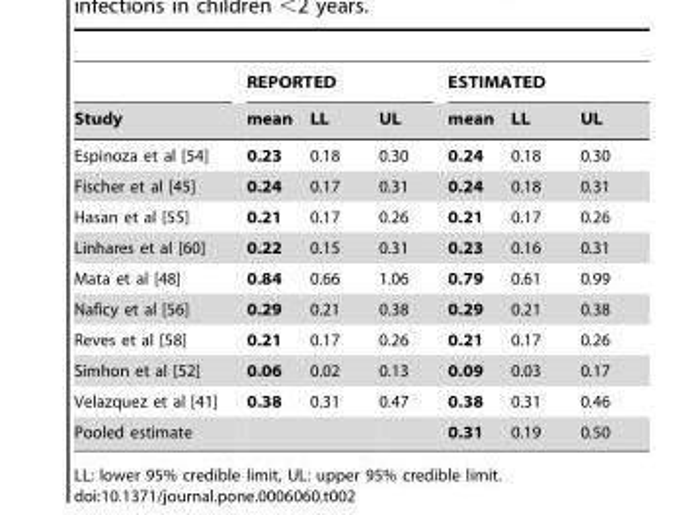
<table><thead><tr><td rowspan="2">Study</td><td colspan="3">REPORTED</td><td colspan="3">ESTIMATED</td></tr><tr><td>mean</td><td>LL</td><td>UL</td><td>mean</td><td>LL</td><td>UL</td></tr></thead><tbody><tr><td>Espinoza et al [54]</td><td>0.23</td><td>0.18</td><td>0.30</td><td>0.24</td><td>0.18</td><td>0.30</td></tr><tr><td>Fischer et al [45]</td><td>0.24</td><td>0.17</td><td>0.31</td><td>0.24</td><td>0.18</td><td>0.31</td></tr><tr><td>Hasan et al [55]</td><td>0.21</td><td>0.17</td><td>0.26</td><td>0.21</td><td>0.17</td><td>0.26</td></tr><tr><td>Linhares et al [60]</td><td>0.22</td><td>0.15</td><td>0.31</td><td>0.23</td><td>0.16</td><td>0.31</td></tr><tr><td>Mata et al [48]</td><td>0.84</td><td>0.66</td><td>1.06</td><td>0.79</td><td>0.61</td><td>0.99</td></tr><tr><td>Naficy et al [56]</td><td>0.29</td><td>0.21</td><td>0.38</td><td>0.29</td><td>0.21</td><td>0.38</td></tr><tr><td>Reves et al [58]</td><td>0.21</td><td>0.17</td><td>0.26</td><td>0.21</td><td>0.17</td><td>0.26</td></tr><tr><td>Simhon et al [52]</td><td>0.06</td><td>0.02</td><td>0.13</td><td>0.09</td><td>0.03</td><td>0.17</td></tr><tr><td>Velazquez et al [41]</td><td>0.38</td><td>0.31</td><td>0.47</td><td>0.38</td><td>0.31</td><td>0.46</td></tr><tr><td>Pooled estimate</td><td></td><td></td><td></td><td>0.31</td><td>0.19</td><td>0.50</td></tr></tbody></table>